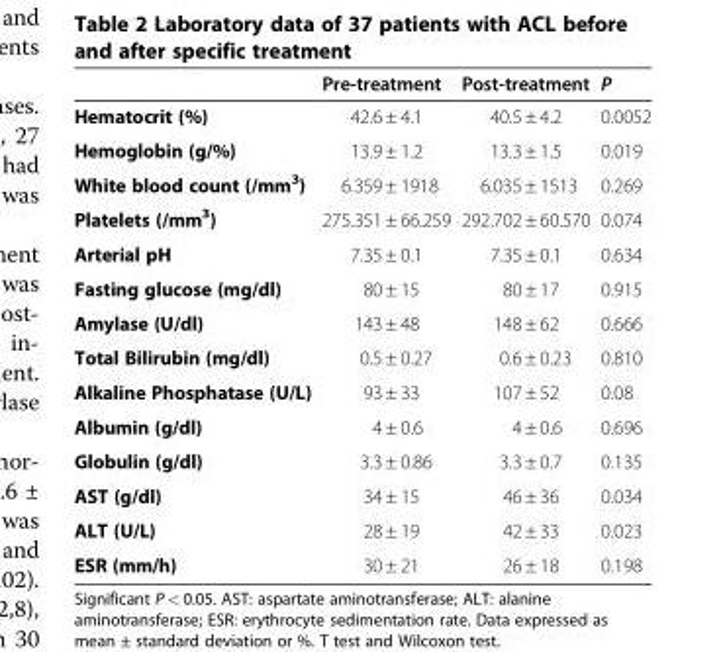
<table><thead><tr><td></td><td>Pre-treatment</td><td>Post-treatment</td><td>P</td></tr></thead><tbody><tr><td>Hematocrit (%)</td><td>42.6 ± 4.1</td><td>40.5 ± 4.2</td><td>0.0052</td></tr><tr><td>Hemoglobin (g/%)</td><td>13.9 ± 1.2</td><td>13.3 ± 1.5</td><td>0.019</td></tr><tr><td>White blood count (/mm<sup>3</sup>)</td><td>6.359 ± 1918</td><td>6.035 ± 1513</td><td>0.269</td></tr><tr><td>Platelets (/mm<sup>3</sup>)</td><td>275.351 ± 66.259</td><td>292.702 ± 60.570</td><td>0.074</td></tr><tr><td>Arterial pH</td><td>7.35 ± 0.1</td><td>7.35 ± 0.1</td><td>0.634</td></tr><tr><td>Fasting glucose (mg/dl)</td><td>80 ± 15</td><td>80 ± 17</td><td>0.915</td></tr><tr><td>Amylase (U/dl)</td><td>143 ± 48</td><td>148 ± 62</td><td>0.666</td></tr><tr><td>Total Bilirubin (mg/dl)</td><td>0.5 ± 0.27</td><td>0.6 ± 0.23</td><td>0.810</td></tr><tr><td>Alkaline Phosphatase (U/L)</td><td>93 ± 33</td><td>107 ± 52</td><td>0.08</td></tr><tr><td>Albumin (g/dl)</td><td>4 ± 0.6</td><td>4 ± 0.6</td><td>0.696</td></tr><tr><td>Globulin (g/dl)</td><td>3.3 ± 0.86</td><td>3.3 ± 0.7</td><td>0.135</td></tr><tr><td>AST (g/dl)</td><td>34 ± 15</td><td>46 ± 36</td><td>0.034</td></tr><tr><td>ALT (U/L)</td><td>28 ± 19</td><td>42 ± 33</td><td>0.023</td></tr><tr><td>ESR (mm/h)</td><td>30 ± 21</td><td>26 ± 18</td><td>0.198</td></tr></tbody></table>